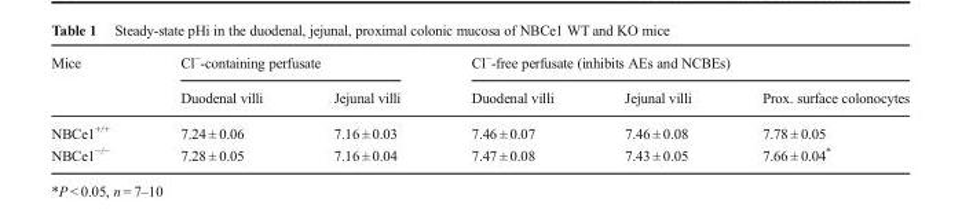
<table><thead><tr><td rowspan="2">Mice</td><td colspan="2">Cl<sup>−</sup>-containing perfusate</td><td colspan="3">Cl<sup>−</sup>-free perfusate (inhibits AEs and NCBEs)</td></tr><tr><td>Duodenal villi</td><td>Jejunal villi</td><td>Duodenal villi</td><td>Jejunal villi</td><td>Prox. surface colonocytes</td></tr></thead><tbody><tr><td>NBCe1<sup>+/+</sup></td><td>7.24 ± 0.06</td><td>7.16 ± 0.03</td><td>7.46 ± 0.07</td><td>7.46 ± 0.08</td><td>7.78 ± 0.05</td></tr><tr><td>NBCe1<sup>−/−</sup></td><td>7.28 ± 0.05</td><td>7.16 ± 0.04</td><td>7.47 ± 0.08</td><td>7.43 ± 0.05</td><td>7.66 ± 0.04*</td></tr></tbody></table>